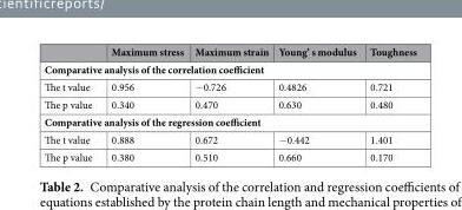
<table><thead><tr><td></td><td>Maximum stress</td><td>Maximum strain</td><td>Young’ s modulus</td><td>Toughness</td></tr></thead><tbody><tr><td colspan="5">Comparative analysis of the correlation coefficient</td></tr><tr><td>The t value</td><td>0.956</td><td>−0.726</td><td>0.4826</td><td>0.721</td></tr><tr><td>The p value</td><td>0.340</td><td>0.470</td><td>0.630</td><td>0.480</td></tr><tr><td colspan="5">Comparative analysis of the regression coefficient</td></tr><tr><td>The t value</td><td>0.888</td><td>0.672</td><td>−0.442</td><td>1.401</td></tr><tr><td>The p value</td><td>0.380</td><td>0.510</td><td>0.660</td><td>0.170</td></tr></tbody></table>